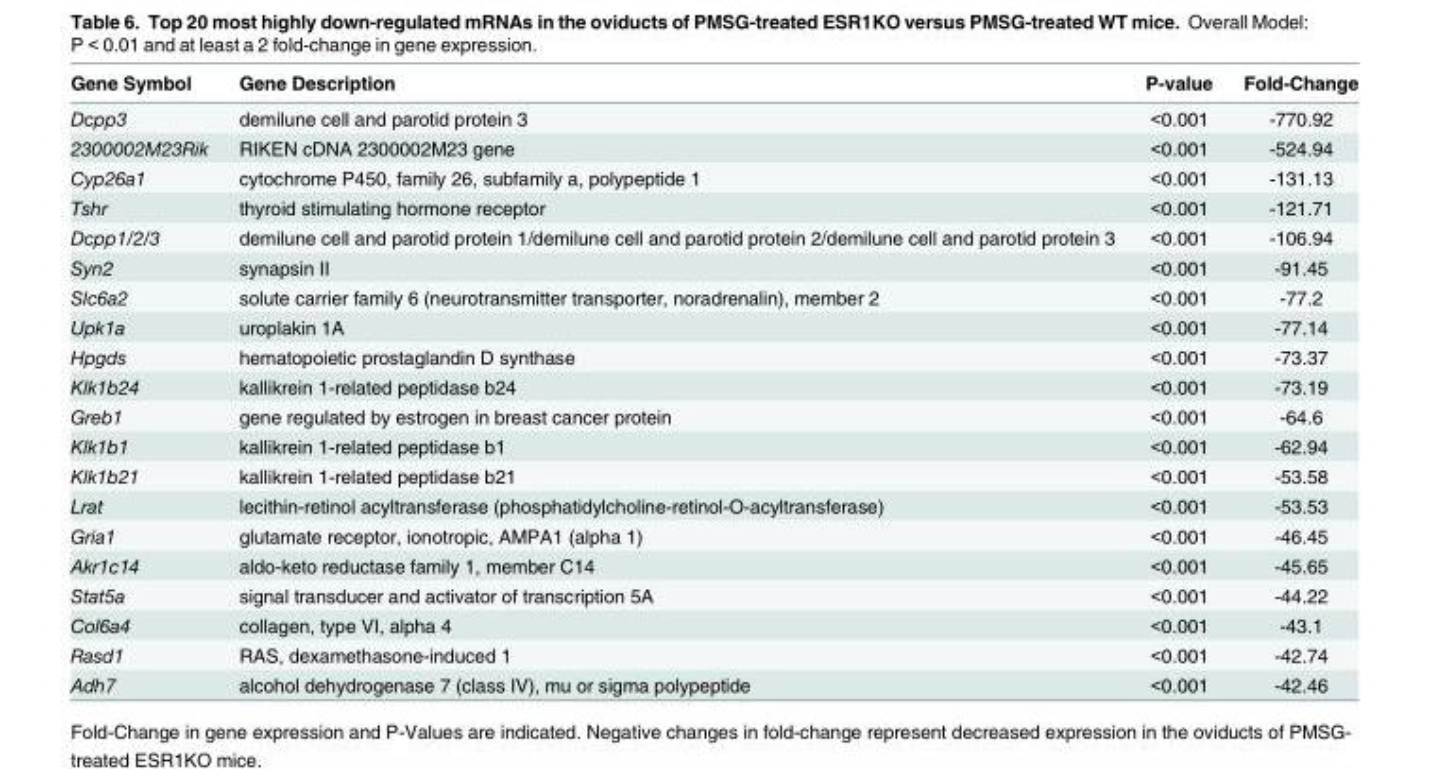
<table><thead><tr><td>Gene Symbol</td><td>Gene Description</td><td>P-value</td><td>Fold-Change</td></tr></thead><tbody><tr><td>Dcpp3</td><td>demilune cell and parotid protein 3</td><td>&lt;0.001</td><td>-770.92</td></tr><tr><td>2300002M23Rik</td><td>RIKEN cDNA 2300002M23 gene</td><td>&lt;0.001</td><td>-524.94</td></tr><tr><td>Cyp26a1</td><td>cytochrome P450, family 26, subfamily a, polypeptide 1</td><td>&lt;0.001</td><td>-131.13</td></tr><tr><td>Tshr</td><td>thyroid stimulating hormone receptor</td><td>&lt;0.001</td><td>-121.71</td></tr><tr><td>Dcpp1/2/3</td><td>demilune cell and parotid protein 1/demilune cell and parotid protein 2/demilune cell and parotid protein 3</td><td>&lt;0.001</td><td>-106.94</td></tr><tr><td>Syn2</td><td>synapsin II</td><td>&lt;0.001</td><td>-91.45</td></tr><tr><td>Slc6a2</td><td>solute carrier family 6 (neurotransmitter transporter, noradrenalin), member 2</td><td>&lt;0.001</td><td>-77.2</td></tr><tr><td>Upk1a</td><td>uroplakin 1A</td><td>&lt;0.001</td><td>-77.14</td></tr><tr><td>Hpgds</td><td>hematopoietic prostaglandin D synthase</td><td>&lt;0.001</td><td>-73.37</td></tr><tr><td>Klk1b24</td><td>kallikrein 1-related peptidase b24</td><td>&lt;0.001</td><td>-73.19</td></tr><tr><td>Greb1</td><td>gene regulated by estrogen in breast cancer protein</td><td>&lt;0.001</td><td>-64.6</td></tr><tr><td>Klk1b1</td><td>kallikrein 1-related peptidase b1</td><td>&lt;0.001</td><td>-62.94</td></tr><tr><td>Klk1b21</td><td>kallikrein 1-related peptidase b21</td><td>&lt;0.001</td><td>-53.58</td></tr><tr><td>Lrat</td><td>lecithin-retinol acyltransferase (phosphatidylcholine-retinol-O-acyltransferase)</td><td>&lt;0.001</td><td>-53.53</td></tr><tr><td>Gria1</td><td>glutamate receptor, ionotropic, AMPA1 (alpha 1)</td><td>&lt;0.001</td><td>-46.45</td></tr><tr><td>Akr1c14</td><td>aldo-keto reductase family 1, member C14</td><td>&lt;0.001</td><td>-45.65</td></tr><tr><td>Stat5a</td><td>signal transducer and activator of transcription 5A</td><td>&lt;0.001</td><td>-44.22</td></tr><tr><td>Col6a4</td><td>collagen, type VI, alpha 4</td><td>&lt;0.001</td><td>-43.1</td></tr><tr><td>Rasd1</td><td>RAS, dexamethasone-induced 1</td><td>&lt;0.001</td><td>-42.74</td></tr><tr><td>Adh7</td><td>alcohol dehydrogenase 7 (class IV), mu or sigma polypeptide</td><td>&lt;0.001</td><td>-42.46</td></tr></tbody></table>